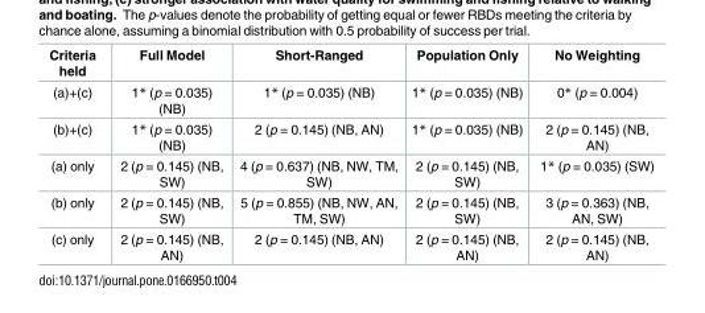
<table><thead><tr><td>Criteria held</td><td>Full Model</td><td>Short-Ranged</td><td>Population Only</td><td>No Weighting</td></tr></thead><tbody><tr><td>(a)+(c)</td><td>1* (p = 0.035) (NB)</td><td>1* (p = 0.035) (NB)</td><td>1* (p = 0.035) (NB)</td><td>0* (p = 0.004)</td></tr><tr><td>(b)+(c)</td><td>1* (p = 0.035) (NB)</td><td>2 (p = 0.145) (NB, AN)</td><td>1* (p = 0.035) (NB)</td><td>2 (p = 0.145) (NB, AN)</td></tr><tr><td>(a) only</td><td>2 (p = 0.145) (NB, SW)</td><td>4 (p = 0.637) (NB, NW, TM, SW)</td><td>2 (p = 0.145) (NB, SW)</td><td>1* (p = 0.035) (SW)</td></tr><tr><td>(b) only</td><td>2 (p = 0.145) (NB, SW)</td><td>5 (p = 0.855) (NB, NW, AN, TM, SW)</td><td>2 (p = 0.145) (NB, SW)</td><td>3 (p = 0.363) (NB, AN, SW)</td></tr><tr><td>(c) only</td><td>2 (p = 0.145) (NB, AN)</td><td>2 (p = 0.145) (NB, AN)</td><td>2 (p = 0.145) (NB, AN)</td><td>2 (p = 0.145) (NB, AN)</td></tr></tbody></table>